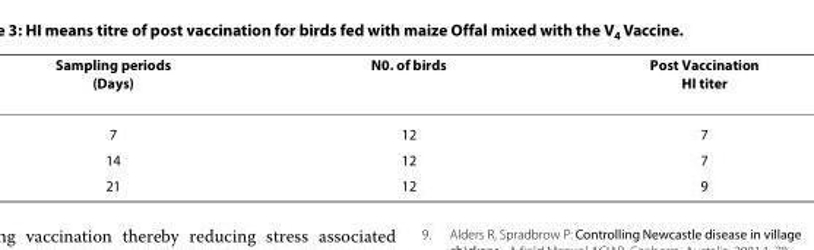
<table><thead><tr><td>Sampling periods (Days)</td><td>N0. of birds</td><td>Post Vaccination HI titer</td></tr></thead><tbody><tr><td>7</td><td>12</td><td>7</td></tr><tr><td>14</td><td>12</td><td>7</td></tr><tr><td>21</td><td>12</td><td>9</td></tr></tbody></table>